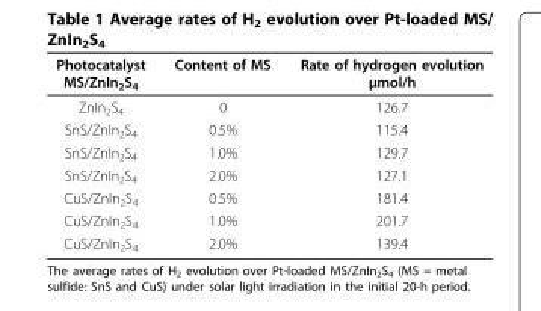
<table><thead><tr><td>Photocatalyst MS/ZnIn<sub>2</sub>S<sub>4</sub></td><td>Content of MS</td><td>Rate of hydrogen evolution μmol/h</td></tr></thead><tbody><tr><td>ZnIn<sub>2</sub>S<sub>4</sub></td><td>0</td><td>126.7</td></tr><tr><td>SnS/ZnIn<sub>2</sub>S<sub>4</sub></td><td>0.5%</td><td>115.4</td></tr><tr><td>SnS/ZnIn<sub>2</sub>S<sub>4</sub></td><td>1.0%</td><td>129.7</td></tr><tr><td>SnS/ZnIn<sub>2</sub>S<sub>4</sub></td><td>2.0%</td><td>127.1</td></tr><tr><td>CuS/ZnIn<sub>2</sub>S<sub>4</sub></td><td>0.5%</td><td>181.4</td></tr><tr><td>CuS/ZnIn<sub>2</sub>S<sub>4</sub></td><td>1.0%</td><td>201.7</td></tr><tr><td>CuS/ZnIn<sub>2</sub>S<sub>4</sub></td><td>2.0%</td><td>139.4</td></tr></tbody></table>